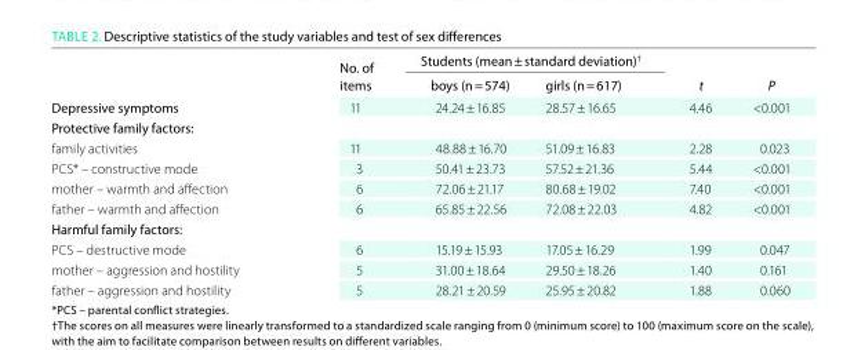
<table><thead><tr><td rowspan="2"></td><td rowspan="2">No. of items</td><td colspan="2">Students (mean ± standard deviation)<sup>†</sup></td><td rowspan="2">t</td><td rowspan="2">P</td></tr><tr><td>boys (n = 574)</td><td>girls (n = 617)</td></tr></thead><tbody><tr><td>depressive symptoms</td><td>11</td><td>24.24 ± 16.85</td><td>28.57 ± 16.65</td><td>4.46</td><td>&lt;0.001</td></tr><tr><td colspan="6">Protective family factors:</td></tr><tr><td>family activities</td><td>11</td><td>48.88 ± 16.70</td><td>51.09 ± 16.83</td><td>2.28</td><td>0.023</td></tr><tr><td>PCS* – constructive mode</td><td>3</td><td>50.41 ± 23.73</td><td>57.52 ± 21.36</td><td>5.44</td><td>&lt;0.001</td></tr><tr><td>mother – warmth and affection</td><td>6</td><td>72.06 ± 21.17</td><td>80.68 ± 19.02</td><td>7.40</td><td>&lt;0.001</td></tr><tr><td>father – warmth and affection</td><td>6</td><td>65.85 ± 22.56</td><td>72.08 ± 22.03</td><td>4.82</td><td>&lt;0.001</td></tr><tr><td colspan="6">harmful family factors:</td></tr><tr><td>PCS – destructive mode</td><td>6</td><td>15.19 ± 15.93</td><td>17.05 ± 16.29</td><td>1.99</td><td>0.047</td></tr><tr><td>mother – aggression and hostility</td><td>5</td><td>31.00 ± 18.64</td><td>29.50 ± 18.26</td><td>1.40</td><td>0.161</td></tr><tr><td>father – aggression and hostility</td><td>5</td><td>28.21 ± 20.59</td><td>25.95 ± 20.82</td><td>1.88</td><td>0.060</td></tr></tbody></table>